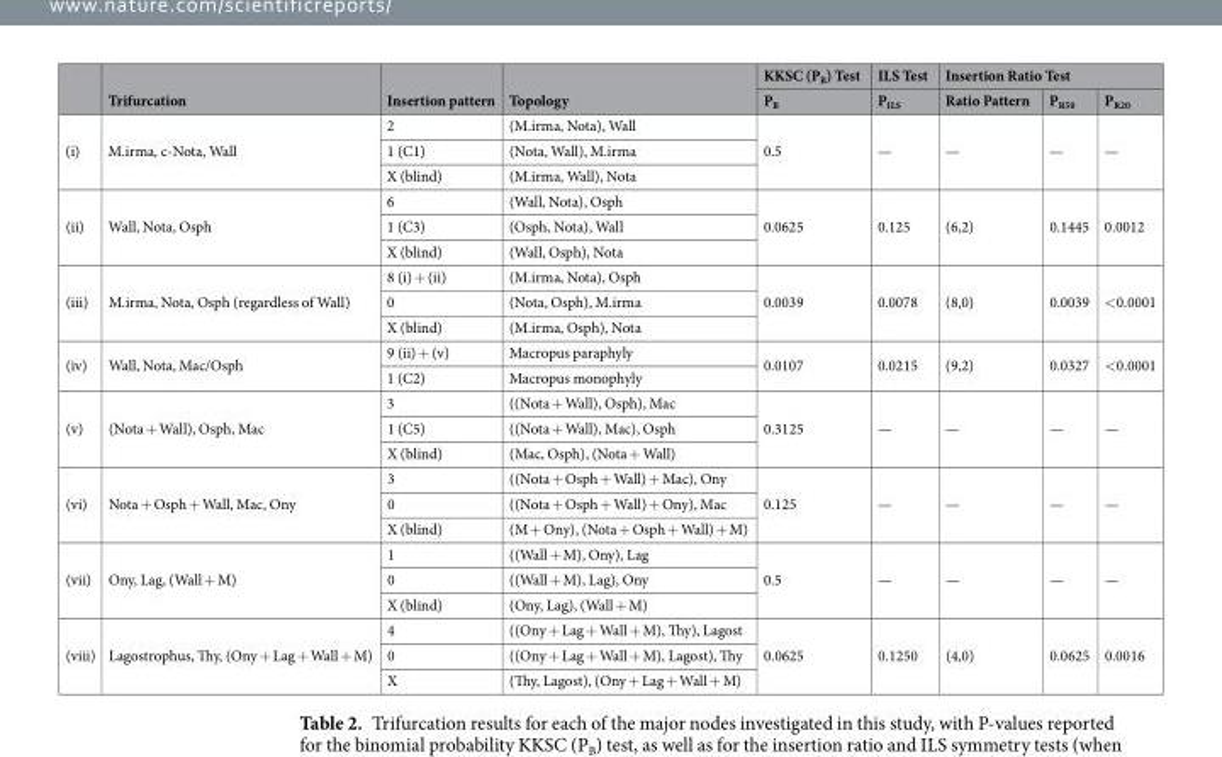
<table><thead><tr><td rowspan="2"></td><td rowspan="2">Trifurcation</td><td rowspan="2">Insertion pattern</td><td rowspan="2">Topology</td><td rowspan="2">KKSC (P<sub>B</sub>) Test P<sub>B</sub></td><td rowspan="2">ILS Test P<sub>ILS</sub></td><td colspan="3">Insertion Ratio Test</td></tr><tr><td>Ratio Pattern</td><td>P<sub>R50</sub></td><td>P<sub>R20</sub></td></tr></thead><tbody><tr><td rowspan="3">(i)</td><td rowspan="3">M.irma, c-Nota, Wall</td><td>2</td><td>(M.irma, Nota), Wall</td><td rowspan="3">0.5</td><td rowspan="3">—</td><td rowspan="3">—</td><td rowspan="3">—</td><td rowspan="3">—</td></tr><tr><td>1 (C1)</td><td>(Nota, Wall), M.irma</td></tr><tr><td>X (blind)</td><td>(M.irma, Wall), Nota</td></tr><tr><td rowspan="3">(ii)</td><td rowspan="3">Wall, Nota, Osph</td><td>6</td><td>(Wall, Nota), Osph</td><td rowspan="3">0.0625</td><td rowspan="3">0.125</td><td rowspan="3">(6,2)</td><td rowspan="3">0.1445</td><td rowspan="3">0.0012</td></tr><tr><td>1 (C3)</td><td>(Osph, Nota), Wall</td></tr><tr><td>X (blind)</td><td>(Wall, Osph), Nota</td></tr><tr><td rowspan="3">(iii)</td><td rowspan="3">M.irma, Nota, Osph (regardless of Wall)</td><td>8 (i) + (ii)</td><td>(M.irma, Nota), Osph</td><td rowspan="3">0.0039</td><td rowspan="3">0.0078</td><td rowspan="3">(8,0)</td><td rowspan="3">0.0039</td><td rowspan="3">&lt;0.0001</td></tr><tr><td>0</td><td>(Nota, Osph), M.irma</td></tr><tr><td>X (blind)</td><td>(M.irma, Osph), Nota</td></tr><tr><td rowspan="2">(iv)</td><td rowspan="2">Wall, Nota, Mac/Osph</td><td>9 (ii) + (v)</td><td>Macropus paraphyly</td><td rowspan="2">0.0107</td><td rowspan="2">0.0215</td><td rowspan="2">(9,2)</td><td rowspan="2">0.0327</td><td rowspan="2">&lt;0.0001</td></tr><tr><td>1 (C2)</td><td>Macropus monophyly</td></tr><tr><td rowspan="3">(v)</td><td rowspan="3">(Nota + Wall), Osph, Mac</td><td>3</td><td>((Nota + Wall), Osph), Mac</td><td rowspan="3">0.3125</td><td rowspan="3">—</td><td rowspan="3">—</td><td rowspan="3">—</td><td rowspan="3">—</td></tr><tr><td>1 (C5)</td><td>((Nota + Wall), Mac), Osph</td></tr><tr><td>X (blind)</td><td>(Mac, Osph), (Nota + Wall)</td></tr><tr><td rowspan="3">(vi)</td><td rowspan="3">Nota + Osph + Wall, Mac, Ony</td><td>3</td><td>((Nota + Osph + Wall) + Mac), Ony</td><td rowspan="3">0.125</td><td rowspan="3">—</td><td rowspan="3">—</td><td rowspan="3">—</td><td rowspan="3">—</td></tr><tr><td>0</td><td>((Nota + Osph + Wall) + Ony), Mac</td></tr><tr><td>X (blind)</td><td>(M + Ony), (Nota + Osph + Wall) + M)</td></tr><tr><td rowspan="3">(vii)</td><td rowspan="3">Ony, Lag, (Wall + M)</td><td>1</td><td>((Wall + M), Ony), Lag</td><td rowspan="3">0.5</td><td rowspan="3">—</td><td rowspan="3">—</td><td rowspan="3">—</td><td rowspan="3">—</td></tr><tr><td>0</td><td>((Wall + M), Lag), Ony</td></tr><tr><td>X (blind)</td><td>(Ony, Lag), (Wall + M)</td></tr><tr><td rowspan="3">(viii)</td><td rowspan="3">Lagostrophus, Thy, (Ony + Lag + Wall + M)</td><td>4</td><td>((Ony + Lag + Wall + M), Thy), Lagost</td><td rowspan="3">0.0625</td><td rowspan="3">0.1250</td><td rowspan="3">(4,0)</td><td rowspan="3">0.0625</td><td rowspan="3">0.0016</td></tr><tr><td>0</td><td>((Ony + Lag + Wall + M), Lagost), Thy</td></tr><tr><td>X</td><td>(Thy, Lagost), (Ony + Lag + Wall + M)</td></tr></tbody></table>